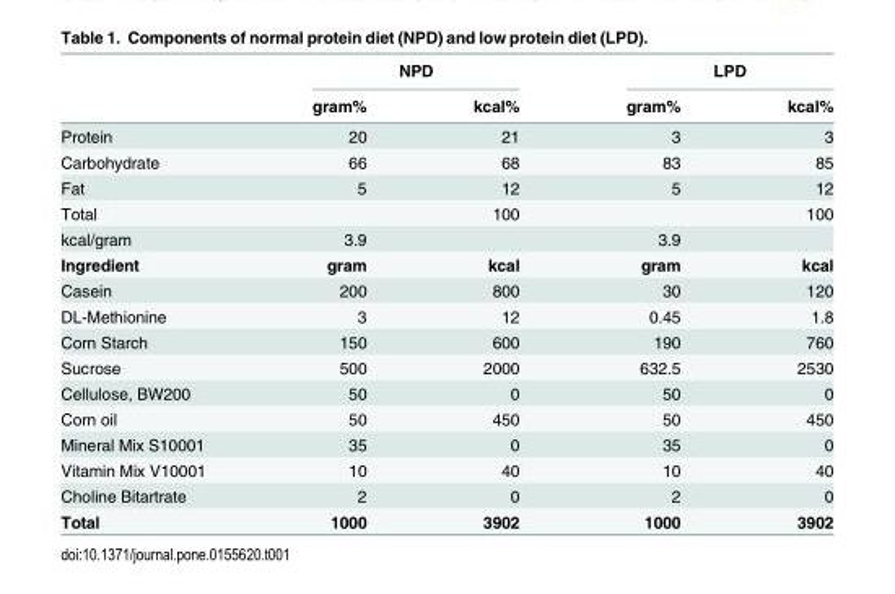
<table><thead><tr><td rowspan="2"></td><td colspan="2">NPD</td><td colspan="2">LPD</td></tr><tr><td>gram%</td><td>kcal%</td><td>gram%</td><td>kcal%</td></tr></thead><tbody><tr><td>Protein</td><td>20</td><td>21</td><td>3</td><td>3</td></tr><tr><td>Carbohydrate</td><td>66</td><td>68</td><td>83</td><td>85</td></tr><tr><td>Fat</td><td>5</td><td>12</td><td>5</td><td>12</td></tr><tr><td>Total</td><td></td><td>100</td><td></td><td>100</td></tr><tr><td>kcal/gram</td><td>3.9</td><td></td><td>3.9</td><td></td></tr><tr><td>Ingredient</td><td>gram</td><td>kcal</td><td>gram</td><td>kcal</td></tr><tr><td>Casein</td><td>200</td><td>800</td><td>30</td><td>120</td></tr><tr><td>DL-Methionine</td><td>3</td><td>12</td><td>0.45</td><td>1.8</td></tr><tr><td>Corn Starch</td><td>150</td><td>600</td><td>190</td><td>760</td></tr><tr><td>Sucrose</td><td>500</td><td>2000</td><td>632.5</td><td>2530</td></tr><tr><td>Cellulose, BW200</td><td>50</td><td>0</td><td>50</td><td>0</td></tr><tr><td>Corn oil</td><td>50</td><td>450</td><td>50</td><td>450</td></tr><tr><td>Mineral Mix S10001</td><td>35</td><td>0</td><td>35</td><td>0</td></tr><tr><td>Vitamin Mix V10001</td><td>10</td><td>40</td><td>10</td><td>40</td></tr><tr><td>Choline Bitartrate</td><td>2</td><td>0</td><td>2</td><td>0</td></tr><tr><td>Total</td><td>1000</td><td>3902</td><td>1000</td><td>3902</td></tr></tbody></table>